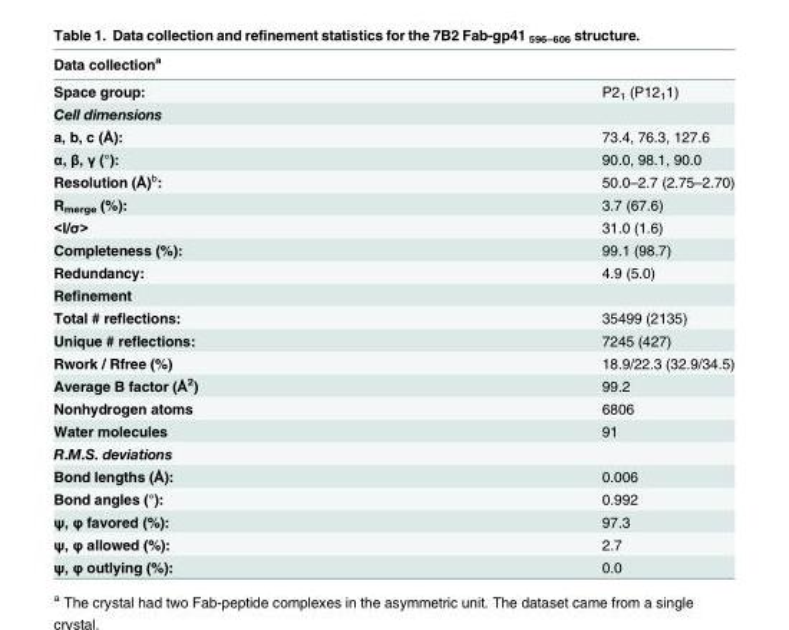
<table><thead><tr><td colspan="2">Data collection<sup>a</sup></td></tr><tr><td>Space group:</td><td>P2<sub>1</sub> (P12<sub>1</sub>1)</td></tr></thead><tbody><tr><td colspan="2">Cell dimensions</td></tr><tr><td>a, b, c (Å):</td><td>73.4, 76.3, 127.6</td></tr><tr><td>α, β, γ (°):</td><td>90.0, 98.1, 90.0</td></tr><tr><td>Resolution (Å)<sup>b</sup>:</td><td>50.0–2.7 (2.75–2.70)</td></tr><tr><td>R<sub>merge</sub> (%):</td><td>3.7 (67.6)</td></tr><tr><td>&lt;I/σ&gt;</td><td>31.0 (1.6)</td></tr><tr><td>Completeness (%):</td><td>99.1 (98.7)</td></tr><tr><td>Redundancy:</td><td>4.9 (5.0)</td></tr><tr><td colspan="2">Refinement</td></tr><tr><td>Total # reflections:</td><td>35499 (2135)</td></tr><tr><td>Unique # reflections:</td><td>7245 (427)</td></tr><tr><td>Rwork / Rfree (%)</td><td>18.9/22.3 (32.9/34.5)</td></tr><tr><td>Average B factor (Å<sup>2</sup>)</td><td>99.2</td></tr><tr><td>Nonhydrogen atoms</td><td>6806</td></tr><tr><td>Water molecules</td><td>91</td></tr><tr><td colspan="2">R.M.S. deviations</td></tr><tr><td>Bond lengths (Å):</td><td>0.006</td></tr><tr><td>Bond angles (°):</td><td>0.992</td></tr><tr><td>ψ, φ favored (%):</td><td>97.3</td></tr><tr><td>ψ, φ allowed (%):</td><td>2.7</td></tr><tr><td>ψ, φ outlying (%):</td><td>0.0</td></tr></tbody></table>